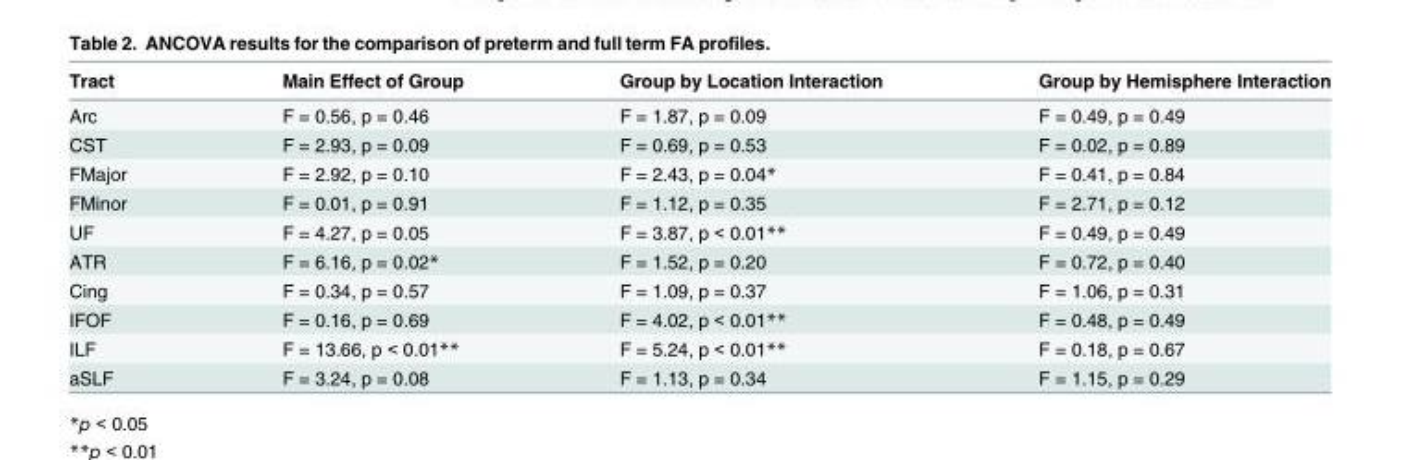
<table><thead><tr><td>Tract</td><td>Main Effect of Group</td><td>Group by Location Interaction</td><td>Group by Hemisphere Interaction</td></tr></thead><tbody><tr><td>Arc</td><td>F = 0.56, p = 0.46</td><td>F = 1.87, p = 0.09</td><td>F = 0.49, p = 0.49</td></tr><tr><td>CST</td><td>F = 2.93, p = 0.09</td><td>F = 0.69, p = 0.53</td><td>F = 0.02, p = 0.89</td></tr><tr><td>FMajor</td><td>F = 2.92, p = 0.10</td><td>F = 2.43, p = 0.04*</td><td>F = 0.41, p = 0.84</td></tr><tr><td>FMinor</td><td>F = 0.01, p = 0.91</td><td>F = 1.12, p = 0.35</td><td>F = 2.71, p = 0.12</td></tr><tr><td>UF</td><td>F = 4.27, p = 0.05</td><td>F = 3.87, p &lt; 0.01**</td><td>F = 0.49, p = 0.49</td></tr><tr><td>ATR</td><td>F = 6.16, p = 0.02*</td><td>F = 1.52, p = 0.20</td><td>F = 0.72, p = 0.40</td></tr><tr><td>Cing</td><td>F = 0.34, p = 0.57</td><td>F = 1.09, p = 0.37</td><td>F = 1.06, p = 0.31</td></tr><tr><td>IFOF</td><td>F = 0.16, p = 0.69</td><td>F = 4.02, p &lt; 0.01**</td><td>F = 0.48, p = 0.49</td></tr><tr><td>ILF</td><td>F = 13.66, p &lt; 0.01**</td><td>F = 5.24, p &lt; 0.01**</td><td>F = 0.18, p = 0.67</td></tr><tr><td>aSLF</td><td>F = 3.24, p = 0.08</td><td>F = 1.13, p = 0.34</td><td>F = 1.15, p = 0.29</td></tr></tbody></table>